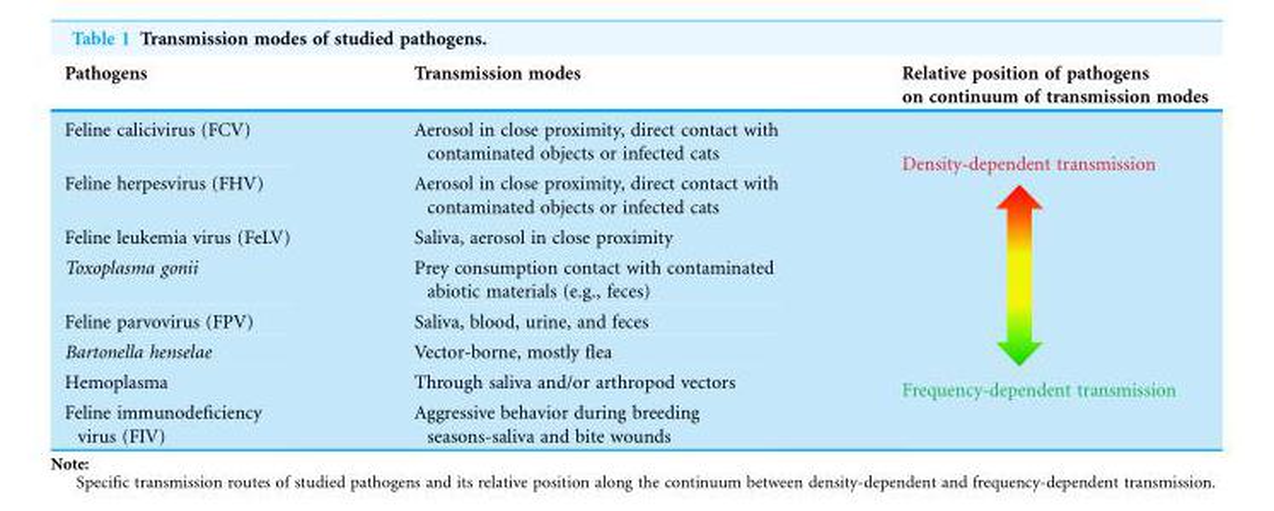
<table><thead><tr><td>Pathogens</td><td>Transmission modes</td><td>Relative position of pathogens on continuum of transmission modes</td></tr></thead><tbody><tr><td>Feline calicivirus (FCV)</td><td>Aerosol in close proximity, direct contact with contaminated objects or infected cats</td><td rowspan="8">Density-dependent transmission Frequency-dependent transmission</td></tr><tr><td>Feline herpesvirus (FHV)</td><td>Aerosol in close proximity, direct contact with contaminated objects or infected cats</td></tr><tr><td>Feline leukemia virus (FeLV)</td><td>Saliva, aerosol in close proximity</td></tr><tr><td>Toxoplasma gonii</td><td>Prey consumption contact with contaminated abiotic materials (e.g., feces)</td></tr><tr><td>Feline parvovirus (FPV)</td><td>Saliva, blood, urine, and feces</td></tr><tr><td>Bartonella henselae</td><td>Vector-borne, mostly flea</td></tr><tr><td>Hemoplasma</td><td>Through saliva and/or arthropod vectors</td></tr><tr><td>Feline immunodeficiency virus (FIV)</td><td>Aggressive behavior during breeding seasons-saliva and bite wounds</td></tr></tbody></table>